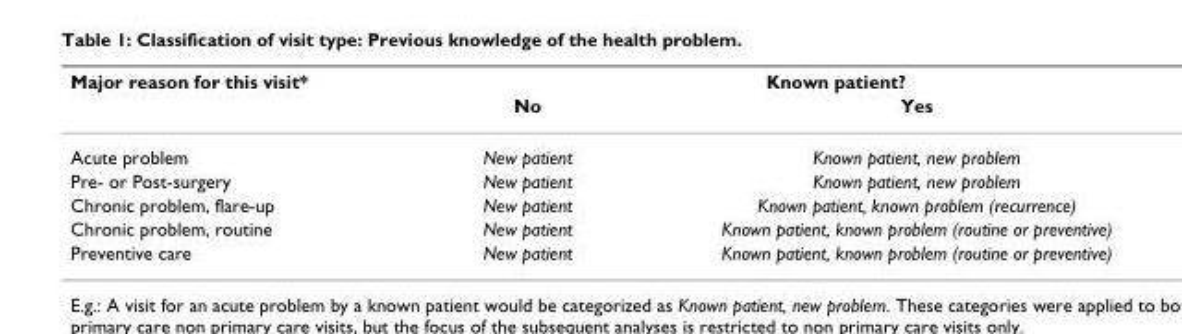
<table><thead><tr><td rowspan="2">Major reason for this visit*</td><td colspan="2">Known patient?</td></tr><tr><td>No</td><td>Yes</td></tr></thead><tbody><tr><td>Acute problem</td><td>New patient</td><td>Known patient, new problem</td></tr><tr><td>Pre- or Post-surgery</td><td>New patient</td><td>Known patient, new problem</td></tr><tr><td>Chronic problem, flare-up</td><td>New patient</td><td>Known patient, known problem (recurrence)</td></tr><tr><td>Chronic problem, routine</td><td>New patient</td><td>Known patient, known problem (routine or preventive)</td></tr><tr><td>Preventive care</td><td>New patient</td><td>Known patient, known problem (routine or preventive)</td></tr></tbody></table>